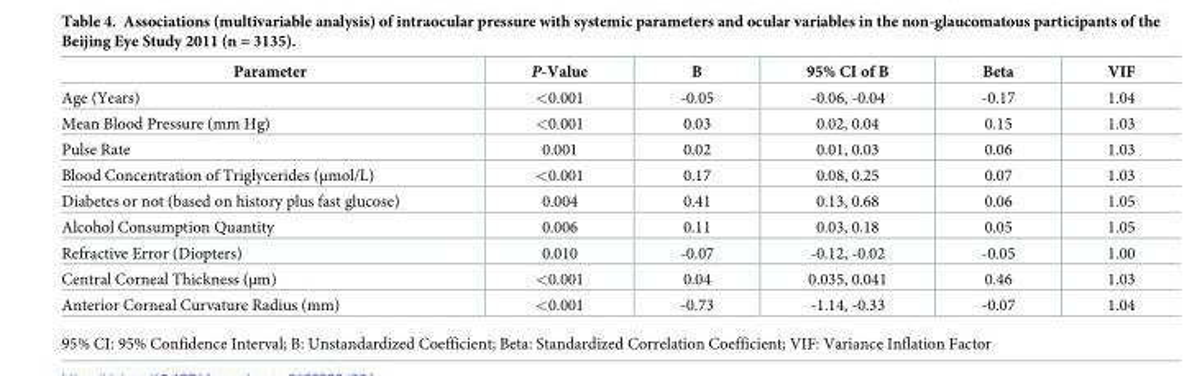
<table><thead><tr><td>Parameter</td><td>P-Value</td><td>B</td><td>95% CI of B</td><td>Beta</td><td>VIF</td></tr></thead><tbody><tr><td>Age (Years)</td><td>&lt;0.001</td><td>-0.05</td><td>-0.06, -0.04</td><td>-0.17</td><td>1.04</td></tr><tr><td>Mean Blood Pressure (mm Hg)</td><td>&lt;0.001</td><td>0.03</td><td>0.02, 0.04</td><td>0.15</td><td>1.03</td></tr><tr><td>Pulse Rate</td><td>0.001</td><td>0.02</td><td>0.01, 0.03</td><td>0.06</td><td>1.03</td></tr><tr><td>Blood Concentration of Triglycerides (μmol/L)</td><td>&lt;0.001</td><td>0.17</td><td>0.08, 0.25</td><td>0.07</td><td>1.03</td></tr><tr><td>Diabetes or not (based on history plus fast glucose)</td><td>0.004</td><td>0.41</td><td>0.13, 0.68</td><td>0.06</td><td>1.05</td></tr><tr><td>Alcohol Consumption Quantity</td><td>0.006</td><td>0.11</td><td>0.03, 0.18</td><td>0.05</td><td>1.05</td></tr><tr><td>Refractive Error (Diopters)</td><td>0.010</td><td>-0.07</td><td>-0.12, -0.02</td><td>-0.05</td><td>1.00</td></tr><tr><td>Central Corneal Thickness (μm)</td><td>&lt;0.001</td><td>0.04</td><td>0.035, 0.041</td><td>0.46</td><td>1.03</td></tr><tr><td>Anterior Corneal Curvature Radius (mm)</td><td>&lt;0.001</td><td>-0.73</td><td>-1.14, -0.33</td><td>-0.07</td><td>1.04</td></tr></tbody></table>